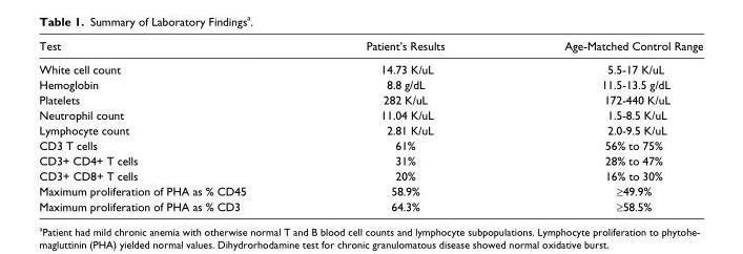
<table><thead><tr><td>Test</td><td>Patient’s Results</td><td>Age-Matched Control Range</td></tr></thead><tbody><tr><td>White cell count</td><td>14.73 K/uL</td><td>5.5-17 K/uL</td></tr><tr><td>Hemoglobin</td><td>8.8 g/dL</td><td>11.5-13.5 g/dL</td></tr><tr><td>Platelets</td><td>282 K/uL</td><td>172-440 K/uL</td></tr><tr><td>Neutrophil count</td><td>11.04 K/uL</td><td>1.5-8.5 K/uL</td></tr><tr><td>Lymphocyte count</td><td>2.81 K/uL</td><td>2.0-9.5 K/uL</td></tr><tr><td>CD3 T cells</td><td>61%</td><td>56% to 75%</td></tr><tr><td>CD3+ CD4+ T cells</td><td>31%</td><td>28% to 47%</td></tr><tr><td>CD3+ CD8+ T cells</td><td>20%</td><td>16% to 30%</td></tr><tr><td>Maximum proliferation of PHA as % CD45</td><td>58.9%</td><td>≥49.9%</td></tr><tr><td>Maximum proliferation of PHA as % CD3</td><td>64.3%</td><td>≥58.5%</td></tr></tbody></table>